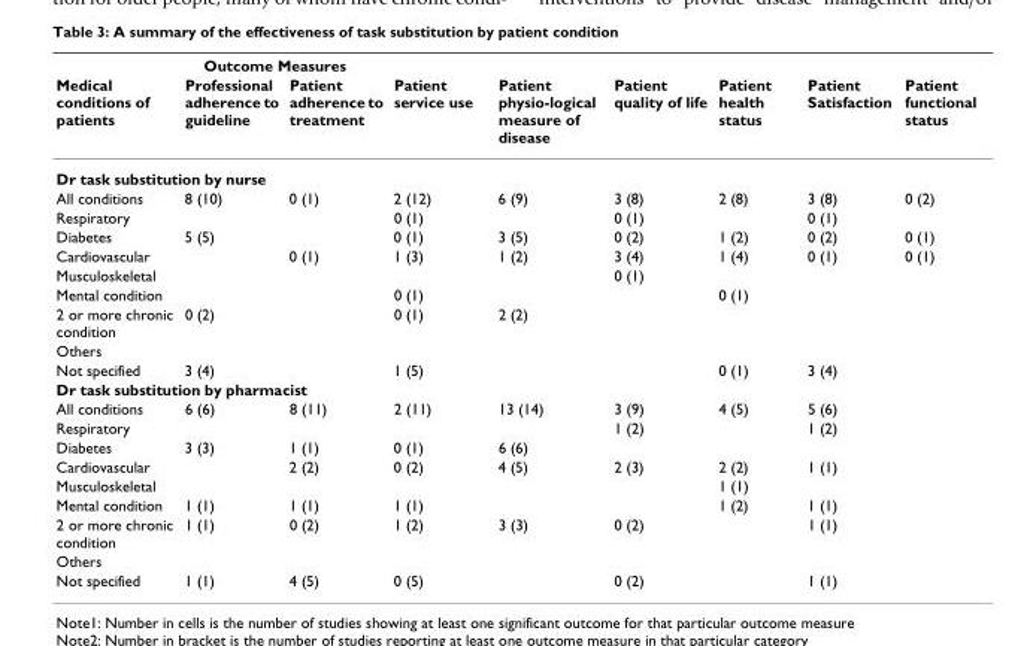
<table><thead><tr><td rowspan="2">Medical conditions of patients</td><td colspan="8">Outcome Measures</td></tr><tr><td>Professional adherence to guideline</td><td>Patient adherence to treatment</td><td>Patient service use</td><td>Patient physio-logical measure of disease</td><td>Patient quality of life</td><td>Patient health status</td><td>Patient Satisfaction</td><td>Patient functional status</td></tr></thead><tbody><tr><td colspan="9">Dr task substitution by nurse</td></tr><tr><td>All conditions</td><td>8 (10)</td><td>0 (1)</td><td>2 (12)</td><td>6 (9)</td><td>3 (8)</td><td>2 (8)</td><td>3 (8)</td><td>0 (2)</td></tr><tr><td>Respiratory</td><td></td><td></td><td>0 (1)</td><td></td><td>0 (1)</td><td></td><td>0 (1)</td><td></td></tr><tr><td>Diabetes</td><td>5 (5)</td><td></td><td>0 (1)</td><td>3 (5)</td><td>0 (2)</td><td>1 (2)</td><td>0 (2)</td><td>0 (1)</td></tr><tr><td>Cardiovascular</td><td></td><td>0 (1)</td><td>1 (3)</td><td>1 (2)</td><td>3 (4)</td><td>1 (4)</td><td>0 (1)</td><td>0 (1)</td></tr><tr><td>Musculoskeletal</td><td></td><td></td><td></td><td></td><td>0 (1)</td><td></td><td></td><td></td></tr><tr><td>Mental condition</td><td></td><td></td><td>0 (1)</td><td></td><td></td><td>0 (1)</td><td></td><td></td></tr><tr><td>2 or more chronic condition</td><td>0 (2)</td><td></td><td>0 (1)</td><td>2 (2)</td><td></td><td></td><td></td><td></td></tr><tr><td colspan="9">Others</td></tr><tr><td>Not specified</td><td>3 (4)</td><td></td><td>1 (5)</td><td></td><td></td><td>0 (1)</td><td>3 (4)</td><td></td></tr><tr><td colspan="9">Dr task substitution by pharmacist</td></tr><tr><td>All conditions</td><td>6 (6)</td><td>8 (11)</td><td>2 (11)</td><td>13 (14)</td><td>3 (9)</td><td>4 (5)</td><td>5 (6)</td><td></td></tr><tr><td>Respiratory</td><td></td><td></td><td></td><td></td><td>1 (2)</td><td></td><td>1 (2)</td><td></td></tr><tr><td>Diabetes</td><td>3 (3)</td><td>1 (1)</td><td>0 (1)</td><td>6 (6)</td><td></td><td></td><td></td><td></td></tr><tr><td>Cardiovascular</td><td></td><td>2 (2)</td><td>0 (2)</td><td>4 (5)</td><td>2 (3)</td><td>2 (2)</td><td>1 (1)</td><td></td></tr><tr><td>Musculoskeletal</td><td></td><td></td><td></td><td></td><td></td><td>1 (1)</td><td></td><td></td></tr><tr><td>Mental condition</td><td>1 (1)</td><td>1 (1)</td><td>1 (1)</td><td></td><td></td><td>1 (2)</td><td>1 (1)</td><td></td></tr><tr><td>2 or more chronic condition</td><td>1 (1)</td><td>0 (2)</td><td>1 (2)</td><td>3 (3)</td><td>0 (2)</td><td></td><td>1 (1)</td><td></td></tr><tr><td colspan="9">Others</td></tr><tr><td>Not specified</td><td>1 (1)</td><td>4 (5)</td><td>0 (5)</td><td></td><td>0 (2)</td><td></td><td>1 (1)</td><td></td></tr></tbody></table>